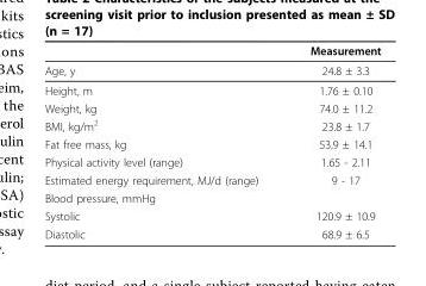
<table><thead><tr><td></td><td>Measurement</td></tr></thead><tbody><tr><td>Age, y</td><td>24.8 ± 3.3</td></tr><tr><td>Height, m</td><td>1.76 ± 0.10</td></tr><tr><td>Weight, kg</td><td>74.0 ± 11.2</td></tr><tr><td>BMI, kg/m<sup>2</sup></td><td>23.8 ± 1.7</td></tr><tr><td>Fat free mass, kg</td><td>53.9 ± 14.1</td></tr><tr><td>Physical activity level (range)</td><td>1.65 - 2.11</td></tr><tr><td>Estimated energy requirement, MJ/d (range)</td><td>9 - 17</td></tr><tr><td colspan="2">Blood pressure, mmHg</td></tr><tr><td>Systolic</td><td>120.9 ± 10.9</td></tr><tr><td>Diastolic</td><td>68.9 ± 6.5</td></tr></tbody></table>